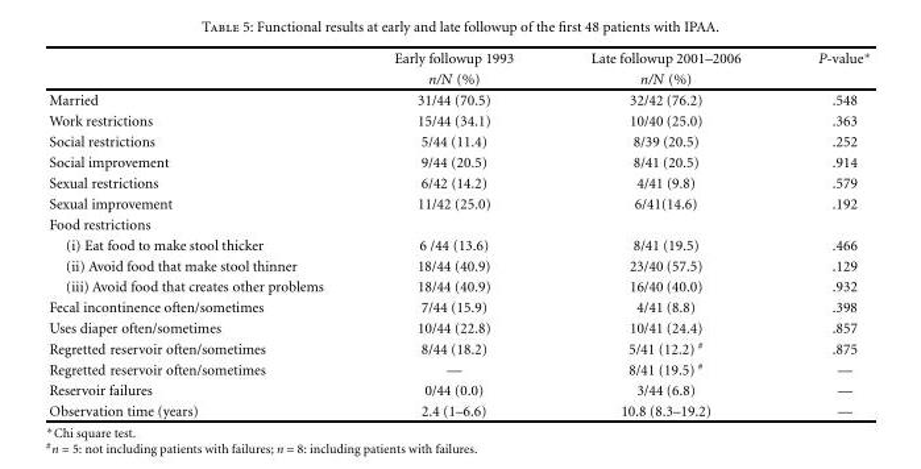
<table><thead><tr><td rowspan="2"></td><td rowspan="2">Early followup 1993 n/N (%)</td><td rowspan="2">Late followup 2001–2006 n/N (%)</td><td rowspan="2">P-value∗</td></tr><tr></tr></thead><tbody><tr><td>Married</td><td>31/44 (70.5)</td><td>32/42 (76.2)</td><td>.548</td></tr><tr><td>Work restrictions</td><td>15/44 (34.1)</td><td>10/40 (25.0)</td><td>.363</td></tr><tr><td>Social restrictions</td><td>5/44 (11.4)</td><td>8/39 (20.5)</td><td>.252</td></tr><tr><td>Social improvement</td><td>9/44 (20.5)</td><td>8/41 (20.5)</td><td>.914</td></tr><tr><td>Sexual restrictions</td><td>6/42 (14.2)</td><td>4/41 (9.8)</td><td>.579</td></tr><tr><td>Sexual improvement</td><td>11/42 (25.0)</td><td>6/41(14.6)</td><td>.192</td></tr><tr><td colspan="4">Food restrictions</td></tr><tr><td>(i) Eat food to make stool thicker</td><td>6 /44 (13.6)</td><td>8/41 (19.5)</td><td>.466</td></tr><tr><td>(ii) Avoid food that make stool thinner</td><td>18/44 (40.9)</td><td>23/40 (57.5)</td><td>.129</td></tr><tr><td>(iii) Avoid food that creates other problems</td><td>18/44 (40.9)</td><td>16/40 (40.0)</td><td>.932</td></tr><tr><td>Fecal incontinence often/sometimes</td><td>7/44 (15.9)</td><td>4/41 (8.8)</td><td>.398</td></tr><tr><td>Uses diaper often/sometimes</td><td>10/44 (22.8)</td><td>10/41 (24.4)</td><td>.857</td></tr><tr><td>Regretted reservoir often/sometimes</td><td>8/44 (18.2)</td><td>5/41 (12.2) <sup>#</sup></td><td>.875</td></tr><tr><td>Regretted reservoir often/sometimes</td><td>—</td><td>8/41 (19.5) <sup>#</sup></td><td>—</td></tr><tr><td>Reservoir failures</td><td>0/44 (0.0)</td><td>3/44 (6.8)</td><td>—</td></tr><tr><td>Observation time (years)</td><td>2.4 (1–6.6)</td><td>10.8 (8.3–19.2)</td><td>—</td></tr></tbody></table>